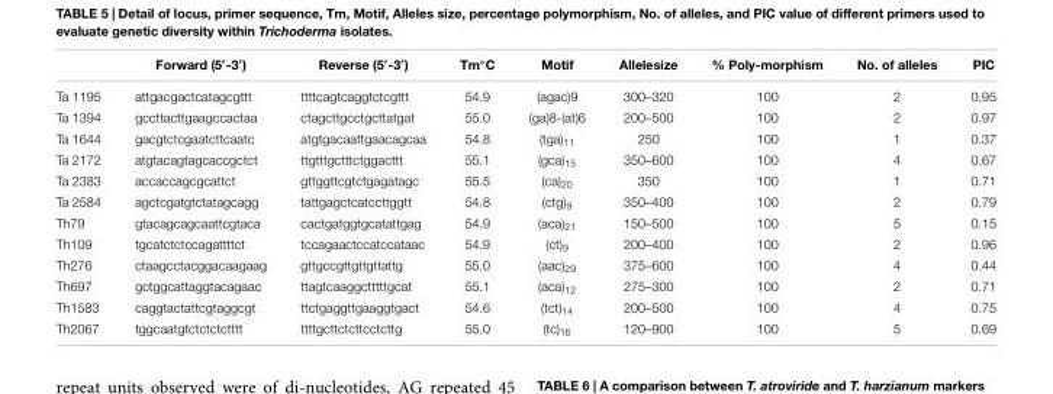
<table><thead><tr><td></td><td>Forward (5′-3′)</td><td>Reverse (5′-3′)</td><td>Tm◦C</td><td>Motif</td><td>Allelesize</td><td>% Poly-morphism</td><td>No. of alleles</td><td>PIC</td></tr></thead><tbody><tr><td>Ta 1195</td><td>attgacgactcatagcgttt</td><td>ttttcagtcaggtctcgttt</td><td>54.9</td><td>(agac)9</td><td>300–320</td><td>100</td><td>2</td><td>0.95</td></tr><tr><td>Ta 1394</td><td>gccttacttgaagccactaa</td><td>ctagcttgcctgcttatgat</td><td>55.0</td><td>(ga)8-(at)6</td><td>200–500</td><td>100</td><td>2</td><td>0.97</td></tr><tr><td>Ta 1644</td><td>gacgtctcgaatcttcaatc</td><td>atgtgacaattgaacagcaa</td><td>54.8</td><td>(tga)<sub>11</sub></td><td>250</td><td>100</td><td>1</td><td>0.37</td></tr><tr><td>Ta 2172</td><td>atgtacagtagcaccgctct</td><td>ttgtttgctttctggacttt</td><td>55.1</td><td>(gca)<sub>15</sub></td><td>350–600</td><td>100</td><td>4</td><td>0.67</td></tr><tr><td>Ta 2383</td><td>accaccagcgcattct</td><td>gttggttcgtctgagatagc</td><td>55.5</td><td>(ca)<sub>20</sub></td><td>350</td><td>100</td><td>1</td><td>0.71</td></tr><tr><td>Ta 2584</td><td>agctcgatgtctatagcagg</td><td>tattgagctcatccttggtt</td><td>54.8</td><td>(ctg)<sub>9</sub></td><td>350–400</td><td>100</td><td>2</td><td>0.79</td></tr><tr><td>Th79</td><td>gtacagcagcaattcgtaca</td><td>cactgatggtgcatattgag</td><td>54.9</td><td>(aca)<sub>21</sub></td><td>150–500</td><td>100</td><td>5</td><td>0.15</td></tr><tr><td>Th109</td><td>tgcatctctccagattttct</td><td>tccagaactccatccataac</td><td>54.9</td><td>(ct)<sub>9</sub></td><td>200–400</td><td>100</td><td>2</td><td>0.96</td></tr><tr><td>Th276</td><td>ctaagcctacggacaagaag</td><td>gttgccgttgttgttattg</td><td>55.0</td><td>(aac)<sub>29</sub></td><td>375–600</td><td>100</td><td>4</td><td>0.44</td></tr><tr><td>Th697</td><td>gctggcattaggtacagaac</td><td>ttagtcaaggctttttgcat</td><td>55.1</td><td>(aca)<sub>12</sub></td><td>275–300</td><td>100</td><td>2</td><td>0.71</td></tr><tr><td>Th1583</td><td>caggtactattcgtaggcgt</td><td>ttctgaggttgaaggtgact</td><td>54.6</td><td>(tct)<sub>14</sub></td><td>200–500</td><td>100</td><td>4</td><td>0.75</td></tr><tr><td>Th2067</td><td>tggcaatgtctctctctttt</td><td>ttttgcttctcttcctcttg</td><td>55.0</td><td>(tc)<sub>16</sub></td><td>120–900</td><td>100</td><td>5</td><td>0.69</td></tr></tbody></table>